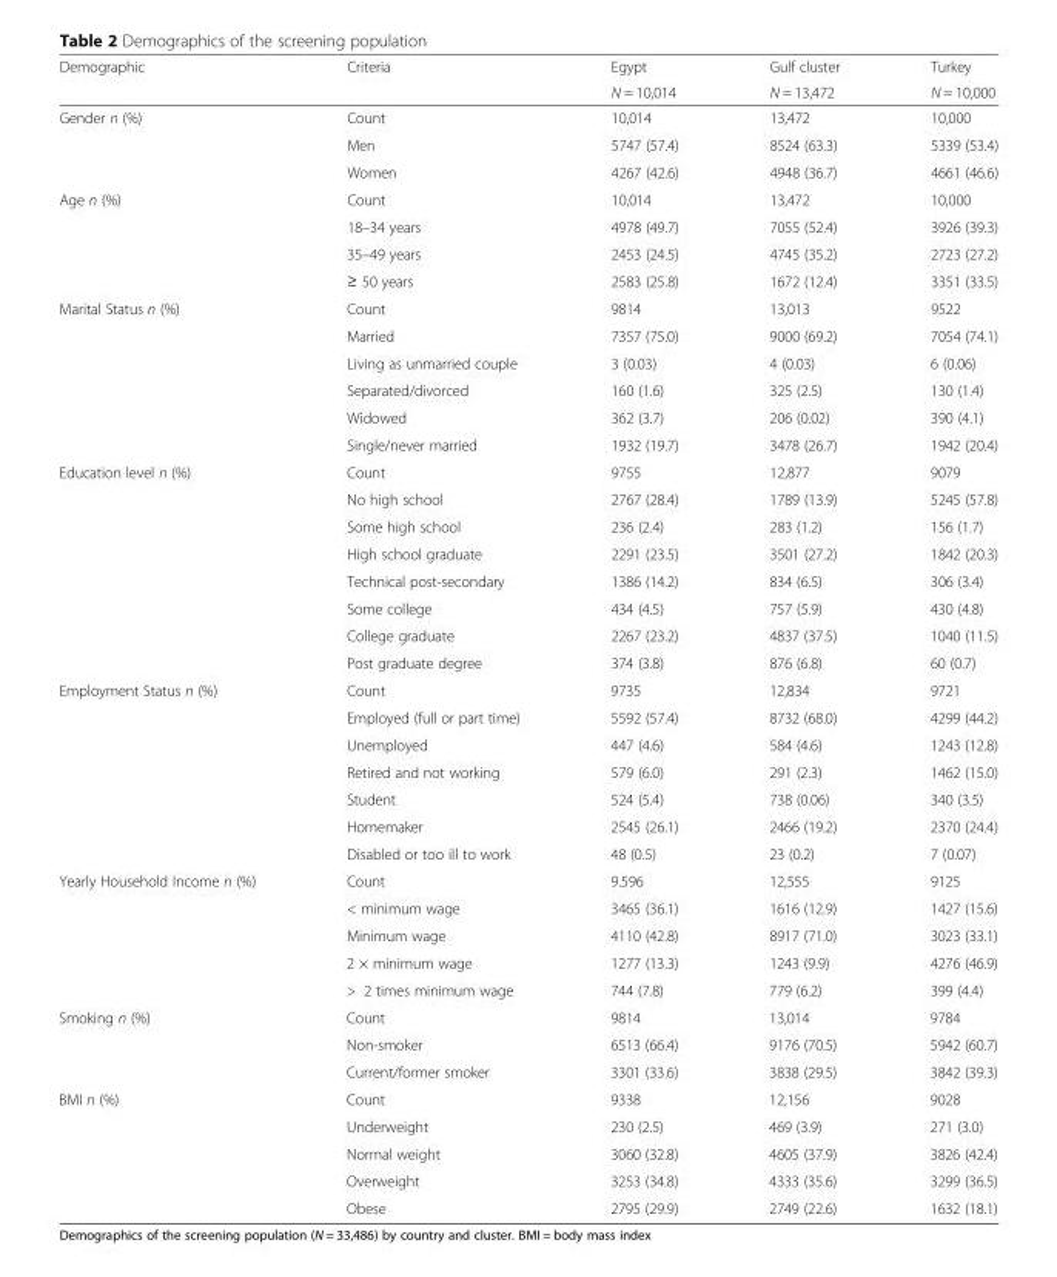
<table><thead><tr><td rowspan="2">Demographic</td><td rowspan="2">Criteria</td><td rowspan="2">Egypt N = 10,014</td><td rowspan="2">Gulf cluster N = 13,472</td><td rowspan="2">Turkey N = 10,000</td></tr><tr></tr></thead><tbody><tr><td rowspan="3">Gender n (%)</td><td>Count</td><td>10,014</td><td>13,472</td><td>10,000</td></tr><tr><td>Men</td><td>5747 (57.4)</td><td>8524 (63.3)</td><td>5339 (53.4)</td></tr><tr><td>Women</td><td>4267 (42.6)</td><td>4948 (36.7)</td><td>4661 (46.6)</td></tr><tr><td rowspan="4">Age n (%)</td><td>Count</td><td>10,014</td><td>13,472</td><td>10,000</td></tr><tr><td>18–34 years</td><td>4978 (49.7)</td><td>7055 (52.4)</td><td>3926 (39.3)</td></tr><tr><td>35–49 years</td><td>2453 (24.5)</td><td>4745 (35.2)</td><td>2723 (27.2)</td></tr><tr><td>≥ 50 years</td><td>2583 (25.8)</td><td>1672 (12.4)</td><td>3351 (33.5)</td></tr><tr><td rowspan="6">Marital Status n (%)</td><td>Count</td><td>9814</td><td>13,013</td><td>9522</td></tr><tr><td>Married</td><td>7357 (75.0)</td><td>9000 (69.2)</td><td>7054 (74.1)</td></tr><tr><td>Living as unmarried couple</td><td>3 (0.03)</td><td>4 (0.03)</td><td>6 (0.06)</td></tr><tr><td>Separated/divorced</td><td>160 (1.6)</td><td>325 (2.5)</td><td>130 (1.4)</td></tr><tr><td>Widowed</td><td>362 (3.7)</td><td>206 (0.02)</td><td>390 (4.1)</td></tr><tr><td>Single/never married</td><td>1932 (19.7)</td><td>3478 (26.7)</td><td>1942 (20.4)</td></tr><tr><td rowspan="8">Education level n (%)</td><td>Count</td><td>9755</td><td>12,877</td><td>9079</td></tr><tr><td>No high school</td><td>2767 (28.4)</td><td>1789 (13.9)</td><td>5245 (57.8)</td></tr><tr><td>Some high school</td><td>236 (2.4)</td><td>283 (1.2)</td><td>156 (1.7)</td></tr><tr><td>High school graduate</td><td>2291 (23.5)</td><td>3501 (27.2)</td><td>1842 (20.3)</td></tr><tr><td>Technical post-secondary</td><td>1386 (14.2)</td><td>834 (6.5)</td><td>306 (3.4)</td></tr><tr><td>Some college</td><td>434 (4.5)</td><td>757 (5.9)</td><td>430 (4.8)</td></tr><tr><td>College graduate</td><td>2267 (23.2)</td><td>4837 (37.5)</td><td>1040 (11.5)</td></tr><tr><td>Post graduate degree</td><td>374 (3.8)</td><td>876 (6.8)</td><td>60 (0.7)</td></tr><tr><td rowspan="7">Employment Status n (%)</td><td>Count</td><td>9735</td><td>12,834</td><td>9721</td></tr><tr><td>Employed (full or part time)</td><td>5592 (57.4)</td><td>8732 (68.0)</td><td>4299 (44.2)</td></tr><tr><td>Unemployed</td><td>447 (4.6)</td><td>584 (4.6)</td><td>1243 (12.8)</td></tr><tr><td>Retired and not working</td><td>579 (6.0)</td><td>291 (2.3)</td><td>1462 (15.0)</td></tr><tr><td>Student</td><td>524 (5.4)</td><td>738 (0.06)</td><td>340 (3.5)</td></tr><tr><td>Homemaker</td><td>2545 (26.1)</td><td>2466 (19.2)</td><td>2370 (24.4)</td></tr><tr><td>Disabled or too ill to work</td><td>48 (0.5)</td><td>23 (0.2)</td><td>7 (0.07)</td></tr><tr><td rowspan="5">Yearly Household Income n (%)</td><td>Count</td><td>9.596</td><td>12,555</td><td>9125</td></tr><tr><td>&lt; minimum wage</td><td>3465 (36.1)</td><td>1616 (12.9)</td><td>1427 (15.6)</td></tr><tr><td>Minimum wage</td><td>4110 (42.8)</td><td>8917 (71.0)</td><td>3023 (33.1)</td></tr><tr><td>2 × minimum wage</td><td>1277 (13.3)</td><td>1243 (9.9)</td><td>4276 (46.9)</td></tr><tr><td>&gt; 2 times minimum wage</td><td>744 (7.8)</td><td>779 (6.2)</td><td>399 (4.4)</td></tr><tr><td rowspan="3">Smoking n (%)</td><td>Count</td><td>9814</td><td>13,014</td><td>9784</td></tr><tr><td>Non-smoker</td><td>6513 (66.4)</td><td>9176 (70.5)</td><td>5942 (60.7)</td></tr><tr><td>Current/former smoker</td><td>3301 (33.6)</td><td>3838 (29.5)</td><td>3842 (39.3)</td></tr><tr><td rowspan="5">BMI n (%)</td><td>Count</td><td>9338</td><td>12,156</td><td>9028</td></tr><tr><td>Underweight</td><td>230 (2.5)</td><td>469 (3.9)</td><td>271 (3.0)</td></tr><tr><td>Normal weight</td><td>3060 (32.8)</td><td>4605 (37.9)</td><td>3826 (42.4)</td></tr><tr><td>Overweight</td><td>3253 (34.8)</td><td>4333 (35.6)</td><td>3299 (36.5)</td></tr><tr><td>Obese</td><td>2795 (29.9)</td><td>2749 (22.6)</td><td>1632 (18.1)</td></tr></tbody></table>